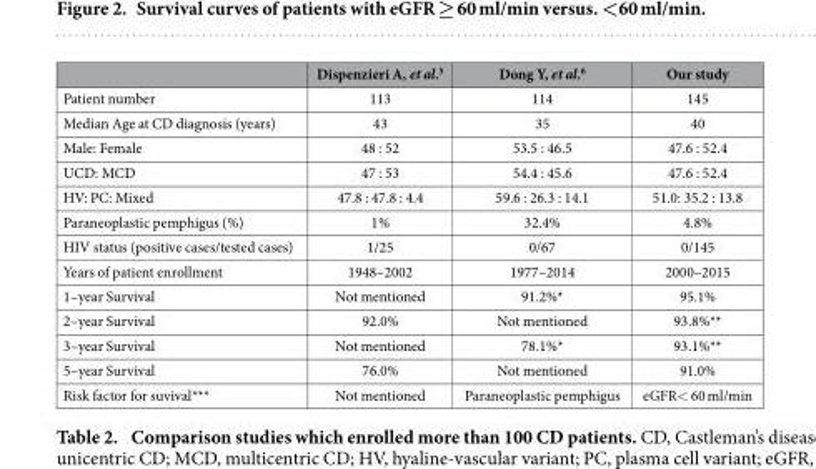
<table><thead><tr><td></td><td>Dispenzieri A, et al.<sup>5</sup></td><td>Dong Y, et al.<sup>6</sup></td><td>Our study</td></tr></thead><tbody><tr><td>Patient number</td><td>113</td><td>114</td><td>145</td></tr><tr><td>Median Age at CD diagnosis (years)</td><td>43</td><td>35</td><td>40</td></tr><tr><td>Male: Female</td><td>48 : 52</td><td>53.5 : 46.5</td><td>47.6 : 52.4</td></tr><tr><td>UCD: MCD</td><td>47 : 53</td><td>54.4 : 45.6</td><td>47.6 : 52.4</td></tr><tr><td>HV: PC: Mixed</td><td>47.8 : 47.8 : 4.4</td><td>59.6 : 26.3 : 14.1</td><td>51.0: 35.2 : 13.8</td></tr><tr><td>Paraneoplastic pemphigus (%)</td><td>1%</td><td>32.4%</td><td>4.8%</td></tr><tr><td>HIV status (positive cases/tested cases)</td><td>1/25</td><td>0/67</td><td>0/145</td></tr><tr><td>Years of patient enrollment</td><td>1948–2002</td><td>1977–2014</td><td>2000–2015</td></tr><tr><td>1–year Survival</td><td>Not mentioned</td><td>91.2%*</td><td>95.1%</td></tr><tr><td>2–year Survival</td><td>92.0%</td><td>Not mentioned</td><td>93.8%**</td></tr><tr><td>3–year Survival</td><td>Not mentioned</td><td>78.1%*</td><td>93.1%**</td></tr><tr><td>5–year Survival</td><td>76.0%</td><td>Not mentioned</td><td>91.0%</td></tr><tr><td>Risk factor for suvival***</td><td>Not mentioned</td><td>Paraneoplastic pemphigus</td><td>eGFR&lt; 60 ml/min</td></tr></tbody></table>